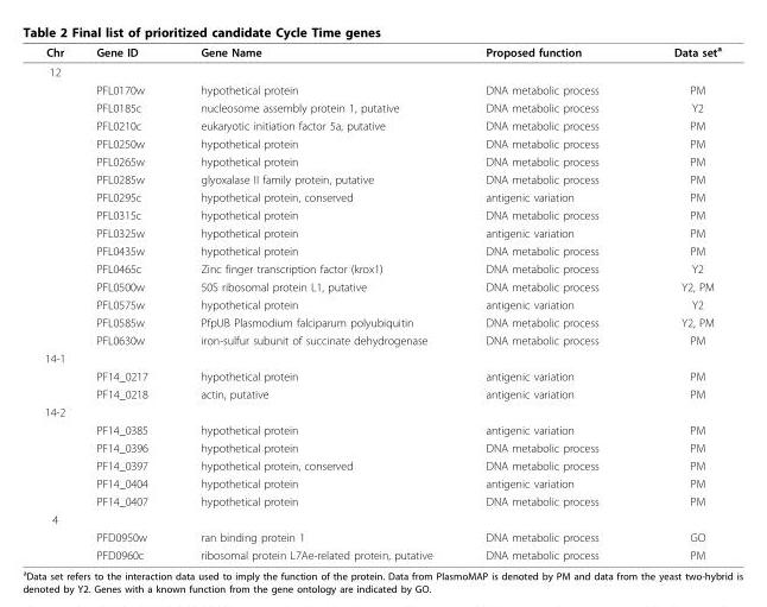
<table><thead><tr><td>Chr</td><td>Gene ID</td><td>Gene Name</td><td>Proposed function</td><td>Data set<sup>a</sup></td></tr></thead><tbody><tr><td colspan="5">12</td></tr><tr><td></td><td>PFL0170w</td><td>hypothetical protein</td><td>DNA metabolic process</td><td>PM</td></tr><tr><td></td><td>PFL0185c</td><td>nucleosome assembly protein 1, putative</td><td>DNA metabolic process</td><td>Y2</td></tr><tr><td></td><td>PFL0210c</td><td>eukaryotic initiation factor 5a, putative</td><td>DNA metabolic process</td><td>PM</td></tr><tr><td></td><td>PFL0250w</td><td>hypothetical protein</td><td>DNA metabolic process</td><td>PM</td></tr><tr><td></td><td>PFL0265w</td><td>hypothetical protein</td><td>DNA metabolic process</td><td>PM</td></tr><tr><td></td><td>PFL0285w</td><td>glyoxalase II family protein, putative</td><td>DNA metabolic process</td><td>PM</td></tr><tr><td></td><td>PFL0295c</td><td>hypothetical protein, conserved</td><td>antigenic variation</td><td>PM</td></tr><tr><td></td><td>PFL0315c</td><td>hypothetical protein</td><td>DNA metabolic process</td><td>PM</td></tr><tr><td></td><td>PFL0325w</td><td>hypothetical protein</td><td>antigenic variation</td><td>PM</td></tr><tr><td></td><td>PFL0435w</td><td>hypothetical protein</td><td>DNA metabolic process</td><td>PM</td></tr><tr><td></td><td>PFL0465c</td><td>Zinc finger transcription factor (krox1)</td><td>DNA metabolic process</td><td>Y2</td></tr><tr><td></td><td>PFL0500w</td><td>50S ribosomal protein L1, putative</td><td>DNA metabolic process</td><td>Y2, PM</td></tr><tr><td></td><td>PFL0575w</td><td>hypothetical protein</td><td>antigenic variation</td><td>Y2</td></tr><tr><td></td><td>PFL0585w</td><td>PfpUB Plasmodium falciparum polyubiquitin</td><td>DNA metabolic process</td><td>Y2, PM</td></tr><tr><td></td><td>PFL0630w</td><td>iron-sulfur subunit of succinate dehydrogenase</td><td>DNA metabolic process</td><td>PM</td></tr><tr><td colspan="5">14-1</td></tr><tr><td></td><td>PF14_0217</td><td>hypothetical protein</td><td>antigenic variation</td><td>PM</td></tr><tr><td></td><td>PF14_0218</td><td>actin, putative</td><td>antigenic variation</td><td>PM</td></tr><tr><td colspan="5">14-2</td></tr><tr><td></td><td>PF14_0385</td><td>hypothetical protein</td><td>antigenic variation</td><td>PM</td></tr><tr><td></td><td>PF14_0396</td><td>hypothetical protein</td><td>DNA metabolic process</td><td>PM</td></tr><tr><td></td><td>PF14_0397</td><td>hypothetical protein, conserved</td><td>DNA metabolic process</td><td>PM</td></tr><tr><td></td><td>PF14_0404</td><td>hypothetical protein</td><td>antigenic variation</td><td>PM</td></tr><tr><td></td><td>PF14_0407</td><td>hypothetical protein</td><td>DNA metabolic process</td><td>PM</td></tr><tr><td colspan="5">4</td></tr><tr><td></td><td>PFD0950w</td><td>ran binding protein 1</td><td>DNA metabolic process</td><td>GO</td></tr><tr><td></td><td>PFD0960c</td><td>ribosomal protein L7Ae-related protein, putative</td><td>DNA metabolic process</td><td>PM</td></tr></tbody></table>